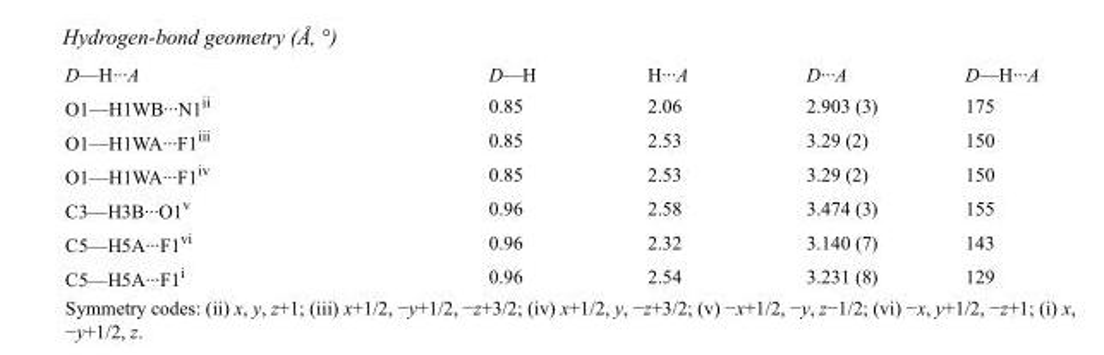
<table><tbody><tr><td>D—H···A</td><td>D—H</td><td>H···A</td><td>D···A</td><td>D—H···A</td></tr><tr><td>O1—H1WB···N1<sup>ii</sup></td><td>0.85</td><td>2.06</td><td>2.903 (3)</td><td>175</td></tr><tr><td>O1—H1WA···F1<sup>iii</sup></td><td>0.85</td><td>2.53</td><td>3.29 (2)</td><td>150</td></tr><tr><td>O1—H1WA···F1<sup>iv</sup></td><td>0.85</td><td>2.53</td><td>3.29 (2)</td><td>150</td></tr><tr><td>C3—H3B···O1<sup>v</sup></td><td>0.96</td><td>2.58</td><td>3.474 (3)</td><td>155</td></tr><tr><td>C5—H5A···F1<sup>vi</sup></td><td>0.96</td><td>2.32</td><td>3.140 (7)</td><td>143</td></tr><tr><td>C5—H5A···F1<sup>i</sup></td><td>0.96</td><td>2.54</td><td>3.231 (8)</td><td>129</td></tr></tbody></table>